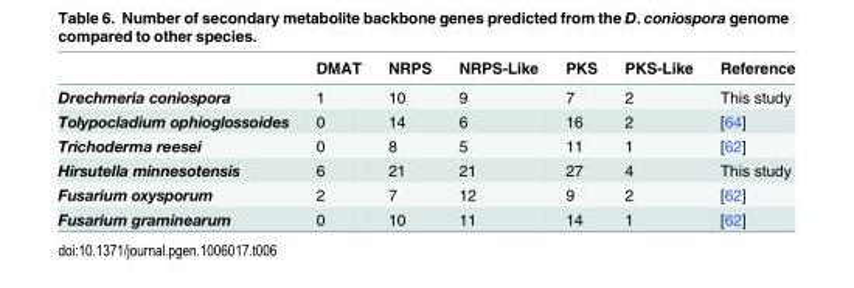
<table><thead><tr><td></td><td>DMAT</td><td>NRPS</td><td>NRPS-Like</td><td>PKS</td><td>PKS-Like</td><td>Reference</td></tr></thead><tbody><tr><td>Drechmeria coniospora</td><td>1</td><td>10</td><td>9</td><td>7</td><td>2</td><td>This study</td></tr><tr><td>Tolypocladium ophioglossoides</td><td>0</td><td>14</td><td>6</td><td>16</td><td>2</td><td>[64]</td></tr><tr><td>Trichoderma reesei</td><td>0</td><td>8</td><td>5</td><td>11</td><td>1</td><td>[62]</td></tr><tr><td>Hirsutella minnesotensis</td><td>6</td><td>21</td><td>21</td><td>27</td><td>4</td><td>This study</td></tr><tr><td>Fusarium oxysporum</td><td>2</td><td>7</td><td>12</td><td>9</td><td>2</td><td>[62]</td></tr><tr><td>Fusarium graminearum</td><td>0</td><td>10</td><td>11</td><td>14</td><td>1</td><td>[62]</td></tr></tbody></table>